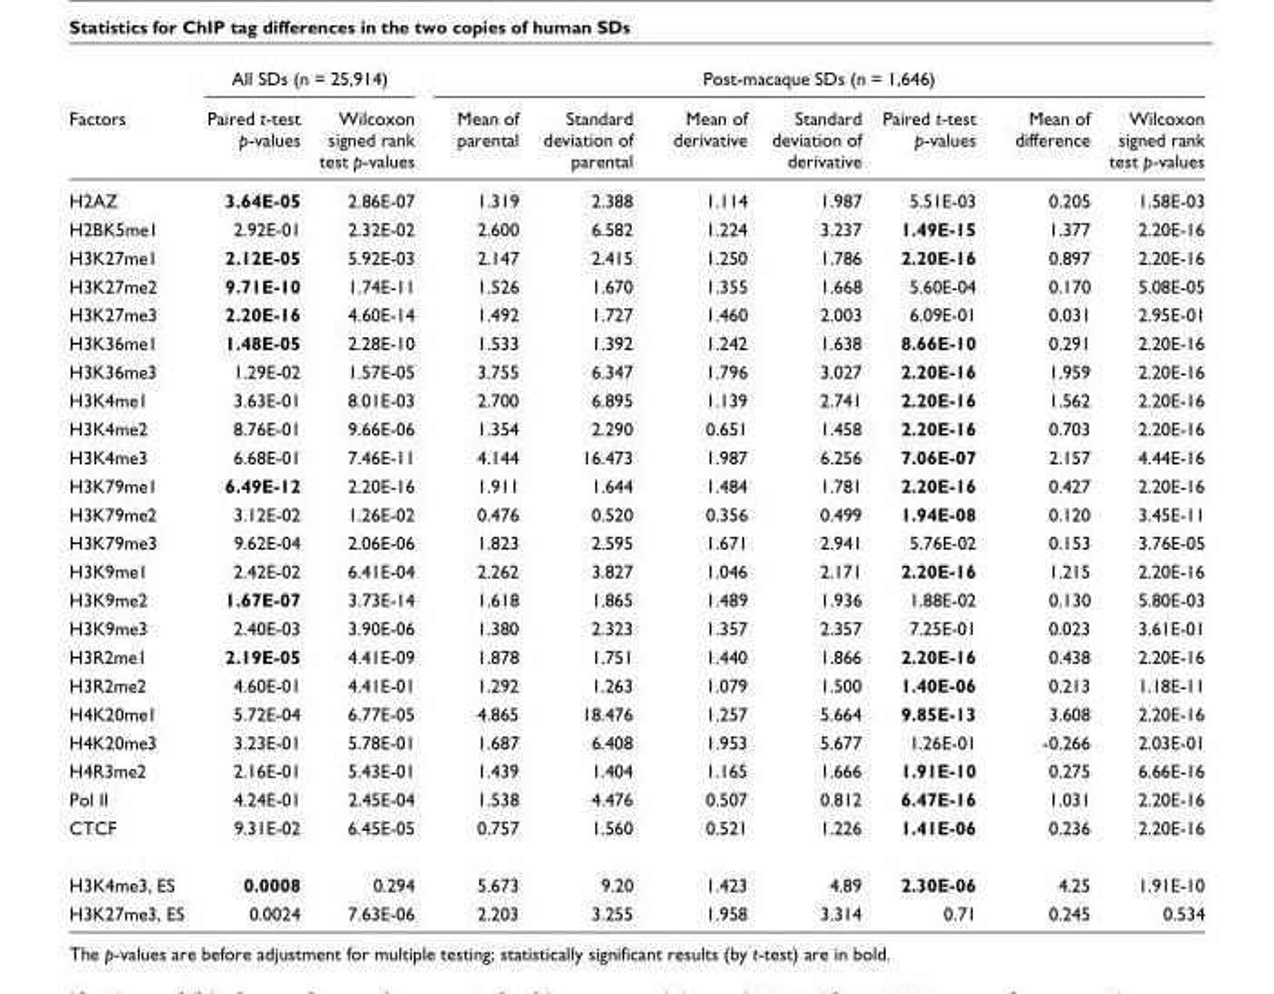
<table><thead><tr><td rowspan="2">Factors</td><td colspan="2">All SDs (n = 25,914)</td><td colspan="7">Post-macaque SDs (n = 1,646)</td></tr><tr><td>Paired t-test p-values</td><td>Wilcoxon signed rank test p-values</td><td>Mean of parental</td><td>Standard deviation of parental</td><td>Mean of derivative</td><td>Standard deviation of derivative</td><td>Paired t-test p-values</td><td>Mean of difference</td><td>Wilcoxon signed rank test p-values</td></tr></thead><tbody><tr><td>H2AZ</td><td>3.64E-05</td><td>2.86E-07</td><td>1.319</td><td>2.388</td><td>1.114</td><td>1.987</td><td>5.51E-03</td><td>0.205</td><td>1.58E-03</td></tr><tr><td>H2BK5me1</td><td>2.92E-01</td><td>2.32E-02</td><td>2.600</td><td>6.582</td><td>1.224</td><td>3.237</td><td>1.49E-15</td><td>1.377</td><td>2.20E-16</td></tr><tr><td>H3K27me1</td><td>2.12E-05</td><td>5.92E-03</td><td>2.147</td><td>2.415</td><td>1.250</td><td>1.786</td><td>2.20E-16</td><td>0.897</td><td>2.20E-16</td></tr><tr><td>H3K27me2</td><td>9.71E-10</td><td>1.74E-11</td><td>1.526</td><td>1.670</td><td>1.355</td><td>1.668</td><td>5.60E-04</td><td>0.170</td><td>5.08E-05</td></tr><tr><td>H3K27me3</td><td>2.20E-16</td><td>4.60E-14</td><td>1.492</td><td>1.727</td><td>1.460</td><td>2.003</td><td>6.09E-01</td><td>0.031</td><td>2.95E-01</td></tr><tr><td>H3K36me1</td><td>1.48E-05</td><td>2.28E-10</td><td>1.533</td><td>1.392</td><td>1.242</td><td>1.638</td><td>8.66E-10</td><td>0.291</td><td>2.20E-16</td></tr><tr><td>H3K36me3</td><td>1.29E-02</td><td>1.57E-05</td><td>3.755</td><td>6.347</td><td>1.796</td><td>3.027</td><td>2.20E-16</td><td>1.959</td><td>2.20E-16</td></tr><tr><td>H3K4me1</td><td>3.63E-01</td><td>8.01E-03</td><td>2.700</td><td>6.895</td><td>1.139</td><td>2.741</td><td>2.20E-16</td><td>1.562</td><td>2.20E-16</td></tr><tr><td>H3K4me2</td><td>8.76E-01</td><td>9.66E-06</td><td>1.354</td><td>2.290</td><td>0.651</td><td>1.458</td><td>2.20E-16</td><td>0.703</td><td>2.20E-16</td></tr><tr><td>H3K4me3</td><td>6.68E-01</td><td>7.46E-11</td><td>4.144</td><td>16.473</td><td>1.987</td><td>6.256</td><td>7.06E-07</td><td>2.157</td><td>4.44E-16</td></tr><tr><td>H3K79me1</td><td>6.49E-12</td><td>2.20E-16</td><td>1.911</td><td>1.644</td><td>1.484</td><td>1.781</td><td>2.20E-16</td><td>0.427</td><td>2.20E-16</td></tr><tr><td>H3K79me2</td><td>3.12E-02</td><td>1.26E-02</td><td>0.476</td><td>0.520</td><td>0.356</td><td>0.499</td><td>1.94E-08</td><td>0.120</td><td>3.45E-11</td></tr><tr><td>H3K79me3</td><td>9.62E-04</td><td>2.06E-06</td><td>1.823</td><td>2.595</td><td>1.671</td><td>2.941</td><td>5.76E-02</td><td>0.153</td><td>3.76E-05</td></tr><tr><td>H3K9me1</td><td>2.42E-02</td><td>6.41E-04</td><td>2.262</td><td>3.827</td><td>1.046</td><td>2.171</td><td>2.20E-16</td><td>1.215</td><td>2.20E-16</td></tr><tr><td>H3K9me2</td><td>1.67E-07</td><td>3.73E-14</td><td>1.618</td><td>1.865</td><td>1.489</td><td>1.936</td><td>1.88E-02</td><td>0.130</td><td>5.80E-03</td></tr><tr><td>H3K9me3</td><td>2.40E-03</td><td>3.90E-06</td><td>1.380</td><td>2.323</td><td>1.357</td><td>2.357</td><td>7.25E-01</td><td>0.023</td><td>3.61E-01</td></tr><tr><td>H3R2me1</td><td>2.19E-05</td><td>4.41E-09</td><td>1.878</td><td>1.751</td><td>1.440</td><td>1.866</td><td>2.20E-16</td><td>0.438</td><td>2.20E-16</td></tr><tr><td>H3R2me2</td><td>4.60E-01</td><td>4.41E-01</td><td>1.292</td><td>1.263</td><td>1.079</td><td>1.500</td><td>1.40E-06</td><td>0.213</td><td>1.18E-11</td></tr><tr><td>H4K20me1</td><td>5.72E-04</td><td>6.77E-05</td><td>4.865</td><td>18.476</td><td>1.257</td><td>5.664</td><td>9.85E-13</td><td>3.608</td><td>2.20E-16</td></tr><tr><td>H4K20me3</td><td>3.23E-01</td><td>5.78E-01</td><td>1.687</td><td>6.408</td><td>1.953</td><td>5.677</td><td>1.26E-01</td><td>-0.266</td><td>2.03E-01</td></tr><tr><td>H4R3me2</td><td>2.16E-01</td><td>5.43E-01</td><td>1.439</td><td>1.404</td><td>1.165</td><td>1.666</td><td>1.91E-10</td><td>0.275</td><td>6.66E-16</td></tr><tr><td>Pol II</td><td>4.24E-01</td><td>2.45E-04</td><td>1.538</td><td>4.476</td><td>0.507</td><td>0.812</td><td>6.47E-16</td><td>1.031</td><td>2.20E-16</td></tr><tr><td>CTCF</td><td>9.31E-02</td><td>6.45E-05</td><td>0.757</td><td>1.560</td><td>0.521</td><td>1.226</td><td>1.41E-06</td><td>0.236</td><td>2.20E-16</td></tr><tr><td>H3K4me3, ES</td><td>0.0008</td><td>0.294</td><td>5.673</td><td>9.20</td><td>1.423</td><td>4.89</td><td>2.30E-06</td><td>4.25</td><td>1.91E-10</td></tr><tr><td>H3K27me3, ES</td><td>0.0024</td><td>7.63E-06</td><td>2.203</td><td>3.255</td><td>1.958</td><td>3.314</td><td>0.71</td><td>0.245</td><td>0.534</td></tr></tbody></table>